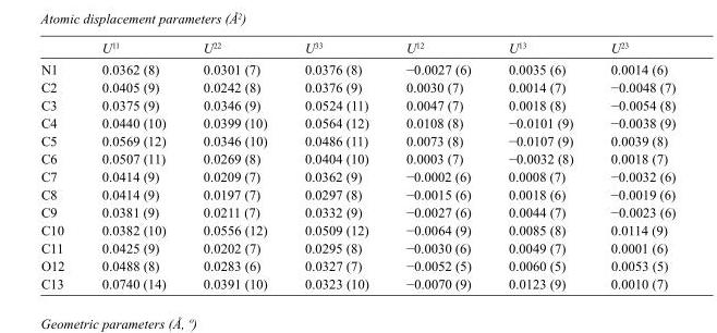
<table><thead><tr><td></td><td>U<sup>11</sup></td><td>U<sup>22</sup></td><td>U<sup>33</sup></td><td>U<sup>12</sup></td><td>U<sup>13</sup></td><td>U<sup>23</sup></td></tr></thead><tbody><tr><td>N1</td><td>0.0362 (8)</td><td>0.0301 (7)</td><td>0.0376 (8)</td><td>−0.0027 (6)</td><td>0.0035 (6)</td><td>0.0014 (6)</td></tr><tr><td>C2</td><td>0.0405 (9)</td><td>0.0242 (8)</td><td>0.0376 (9)</td><td>0.0030 (7)</td><td>0.0014 (7)</td><td>−0.0048 (7)</td></tr><tr><td>C3</td><td>0.0375 (9)</td><td>0.0346 (9)</td><td>0.0524 (11)</td><td>0.0047 (7)</td><td>0.0018 (8)</td><td>−0.0054 (8)</td></tr><tr><td>C4</td><td>0.0440 (10)</td><td>0.0399 (10)</td><td>0.0564 (12)</td><td>0.0108 (8)</td><td>−0.0101 (9)</td><td>−0.0038 (9)</td></tr><tr><td>C5</td><td>0.0569 (12)</td><td>0.0346 (10)</td><td>0.0486 (11)</td><td>0.0073 (8)</td><td>−0.0107 (9)</td><td>0.0039 (8)</td></tr><tr><td>C6</td><td>0.0507 (11)</td><td>0.0269 (8)</td><td>0.0404 (10)</td><td>0.0003 (7)</td><td>−0.0032 (8)</td><td>0.0018 (7)</td></tr><tr><td>C7</td><td>0.0414 (9)</td><td>0.0209 (7)</td><td>0.0362 (9)</td><td>−0.0002 (6)</td><td>0.0008 (7)</td><td>−0.0032 (6)</td></tr><tr><td>C8</td><td>0.0414 (9)</td><td>0.0197 (7)</td><td>0.0297 (8)</td><td>−0.0015 (6)</td><td>0.0018 (6)</td><td>−0.0019 (6)</td></tr><tr><td>C9</td><td>0.0381 (9)</td><td>0.0211 (7)</td><td>0.0332 (9)</td><td>−0.0027 (6)</td><td>0.0044 (7)</td><td>−0.0023 (6)</td></tr><tr><td>C10</td><td>0.0382 (10)</td><td>0.0556 (12)</td><td>0.0509 (12)</td><td>−0.0064 (9)</td><td>0.0085 (8)</td><td>0.0114 (9)</td></tr><tr><td>C11</td><td>0.0425 (9)</td><td>0.0202 (7)</td><td>0.0295 (8)</td><td>−0.0030 (6)</td><td>0.0049 (7)</td><td>0.0001 (6)</td></tr><tr><td>O12</td><td>0.0488 (8)</td><td>0.0283 (6)</td><td>0.0327 (7)</td><td>−0.0052 (5)</td><td>0.0060 (5)</td><td>0.0053 (5)</td></tr><tr><td>C13</td><td>0.0740 (14)</td><td>0.0391 (10)</td><td>0.0323 (10)</td><td>−0.0070 (9)</td><td>0.0123 (9)</td><td>0.0010 (7)</td></tr></tbody></table>